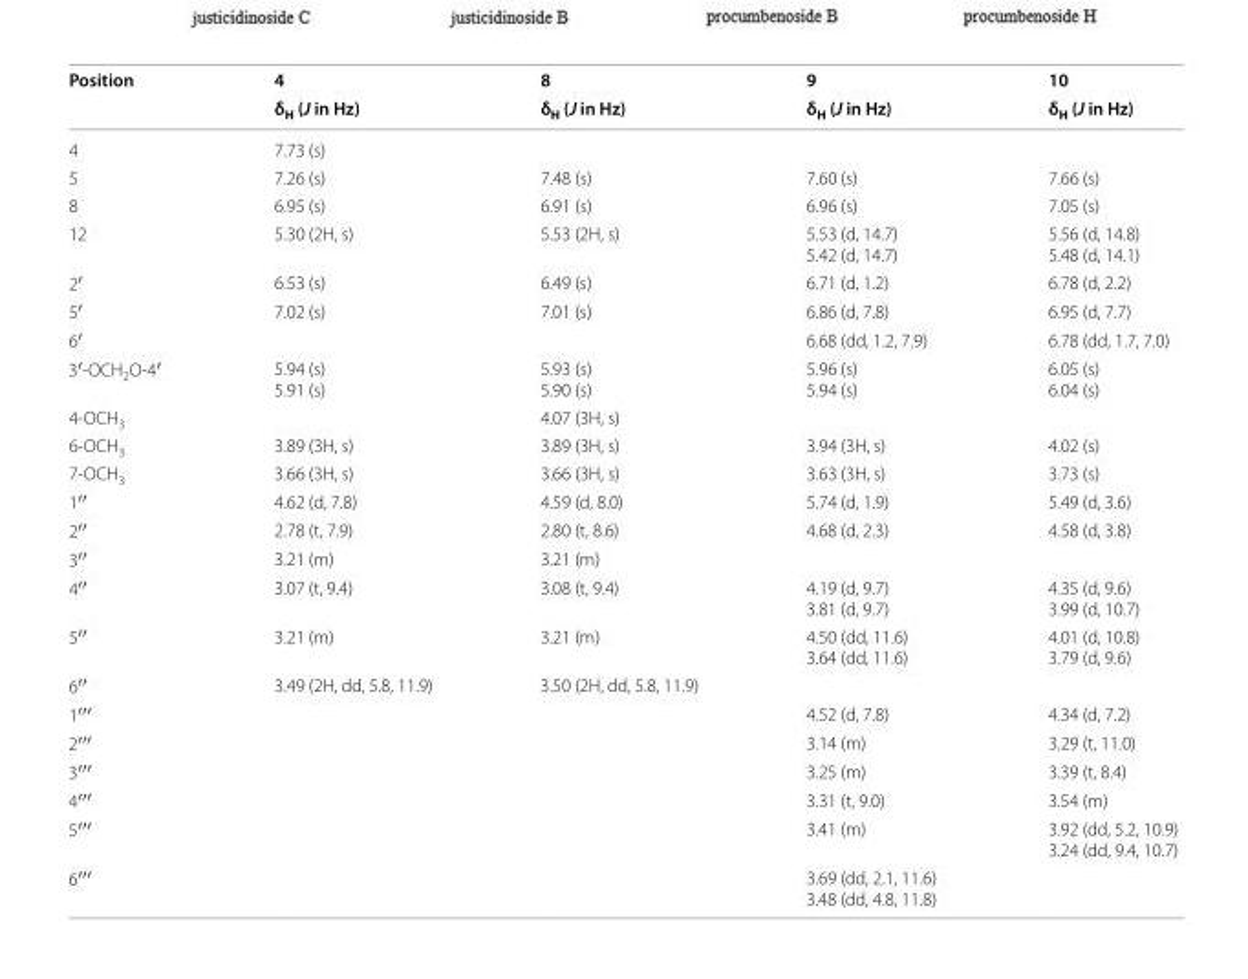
<table><thead><tr><td rowspan="2">Position</td><td rowspan="2">4 δH (J in Hz)</td><td rowspan="2">8 δH (J in Hz)</td><td rowspan="2">9 δ<sub>H</sub> (J in Hz)</td><td rowspan="2">10 δ<sub>H</sub> (J in Hz)</td></tr><tr></tr></thead><tbody><tr><td>4</td><td>7.73 (s)</td><td></td><td></td><td></td></tr><tr><td>5</td><td>7.26 (s)</td><td>7.48 (s)</td><td>7.60 (s)</td><td>7.66 (s)</td></tr><tr><td>8</td><td>6.95 (s)</td><td>6.91 (s)</td><td>6.96 (s)</td><td>7.05 (s)</td></tr><tr><td>12</td><td>5.30 (2H, s)</td><td>5.53 (2H, s)</td><td>5.53 (d, 14.7) 5.42 (d, 14.7)</td><td>5.56 (d, 14.8) 5.48 (d, 14.1)</td></tr><tr><td>2′</td><td>6.53 (s)</td><td>6.49 (s)</td><td>6.71 (d, 1.2)</td><td>6.78 (d, 2.2)</td></tr><tr><td>5′</td><td>7.02 (s)</td><td>7.01 (s)</td><td>6.86 (d, 7.8)</td><td>6.95 (d, 7.7)</td></tr><tr><td>6′</td><td></td><td></td><td>6.68 (dd, 1.2, 7.9)</td><td>6.78 (dd, 1.7, 7.0)</td></tr><tr><td>3′-OCH<sub>2</sub>O-4′</td><td>5.94 (s) 5.91 (s)</td><td>5.93 (s) 5.90 (s)</td><td>5.96 (s) 5.94 (s)</td><td>6.05 (s) 6.04 (s)</td></tr><tr><td>4-OCH<sub>3</sub></td><td></td><td>4.07 (3H, s)</td><td></td><td></td></tr><tr><td>6-OCH<sub>3</sub></td><td>3.89 (3H, s)</td><td>3.89 (3H, s)</td><td>3.94 (3H, s)</td><td>4.02 (s)</td></tr><tr><td>7-OCH<sub>3</sub></td><td>3.66 (3H, s)</td><td>3.66 (3H, s)</td><td>3.63 (3H, s)</td><td>3.73 (s)</td></tr><tr><td>1′′</td><td>4.62 (d, 7.8)</td><td>4.59 (d, 8.0)</td><td>5.74 (d, 1.9)</td><td>5.49 (d, 3.6)</td></tr><tr><td>2′′</td><td>2.78 (t, 7.9)</td><td>2.80 (t, 8.6)</td><td>4.68 (d, 2.3)</td><td>4.58 (d, 3.8)</td></tr><tr><td>3′′</td><td>3.21 (m)</td><td>3.21 (m)</td><td></td><td></td></tr><tr><td>4′′</td><td>3.07 (t, 9.4)</td><td>3.08 (t, 9.4)</td><td>4.19 (d, 9.7) 3.81 (d, 9.7)</td><td>4.35 (d, 9.6) 3.99 (d, 10.7)</td></tr><tr><td>5′′</td><td>3.21 (m)</td><td>3.21 (m)</td><td>4.50 (dd, 11.6) 3.64 (dd, 11.6)</td><td>4.01 (d, 10.8) 3.79 (d, 9.6)</td></tr><tr><td>6′′</td><td>3.49 (2H, dd, 5.8, 11.9)</td><td>3.50 (2H, dd, 5.8, 11.9)</td><td></td><td></td></tr><tr><td>1′′′</td><td></td><td></td><td>4.52 (d, 7.8)</td><td>4.34 (d, 7.2)</td></tr><tr><td>2′′′</td><td></td><td></td><td>3.14 (m)</td><td>3.29 (t, 11.0)</td></tr><tr><td>3′′′</td><td></td><td></td><td>3.25 (m)</td><td>3.39 (t, 8.4)</td></tr><tr><td>4′′′</td><td></td><td></td><td>3.31 (t, 9.0)</td><td>3.54 (m)</td></tr><tr><td>5′′′</td><td></td><td></td><td>3.41 (m)</td><td>3.92 (dd, 5.2, 10.9) 3.24 (dd, 9.4, 10.7)</td></tr><tr><td>6′′′</td><td></td><td></td><td>3.69 (dd, 2.1, 11.6) 3.48 (dd, 4.8, 11.8)</td><td></td></tr></tbody></table>